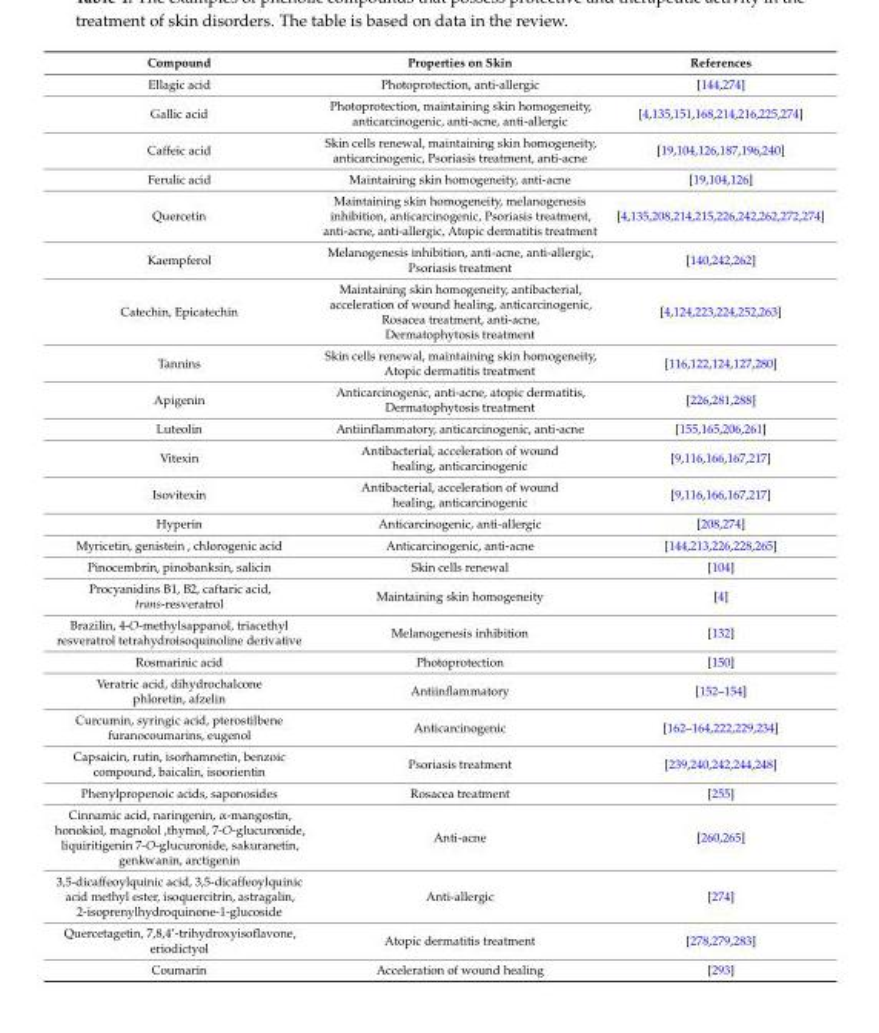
<table><thead><tr><td>Compound</td><td>Properties on Skin</td><td>References</td></tr></thead><tbody><tr><td>Ellagic acid</td><td>Photoprotection, anti-allergic</td><td>[144,274]</td></tr><tr><td>Gallic acid</td><td>Photoprotection, maintaining skin homogeneity, anticarcinogenic, anti-acne, anti-allergic</td><td>[4,135,151,168,214,216,225,274]</td></tr><tr><td>Caffeic acid</td><td>Skin cells renewal, maintaining skin homogeneity, anticarcinogenic, Psoriasis treatment, anti-acne</td><td>[19,104,126,187,196,240]</td></tr><tr><td>Ferulic acid</td><td>Maintaining skin homogeneity, anti-acne</td><td>[19,104,126]</td></tr><tr><td>Quercetin</td><td>Maintaining skin homogeneity, melanogenesis inhibition, anticarcinogenic, Psoriasis treatment, anti-acne, anti-allergic, Atopic dermatitis treatment</td><td>[4,135,208,214,215,226,242,262,272,274]</td></tr><tr><td>Kaempferol</td><td>Melanogenesis inhibition, anti-acne, anti-allergic, Psoriasis treatment</td><td>[140,242,262]</td></tr><tr><td>Catechin, Epicatechin</td><td>Maintaining skin homogeneity, antibacterial, acceleration of wound healing, anticarcinogenic, Rosacea treatment, anti-acne, Dermatophytosis treatment</td><td>[4,124,223,224,252,263]</td></tr><tr><td>Tannins</td><td>Skin cells renewal, maintaining skin homogeneity, Atopic dermatitis treatment</td><td>[116,122,124,127,280]</td></tr><tr><td>Apigenin</td><td>Anticarcinogenic, anti-acne, atopic dermatitis, Dermatophytosis treatment</td><td>[226,281,288]</td></tr><tr><td>Luteolin</td><td>Antiinflammatory, anticarcinogenic, anti-acne</td><td>[155,165,206,261]</td></tr><tr><td>Vitexin</td><td>Antibacterial, acceleration of wound healing, anticarcinogenic</td><td>[9,116,166,167,217]</td></tr><tr><td>Isovitexin</td><td>Antibacterial, acceleration of wound healing, anticarcinogenic</td><td>[9,116,166,167,217]</td></tr><tr><td>Hyperin</td><td>Anticarcinogenic, anti-allergic</td><td>[208,274]</td></tr><tr><td>Myricetin, genistein , chlorogenic acid</td><td>Anticarcinogenic, anti-acne</td><td>[144,213,226,228,265]</td></tr><tr><td>Pinocembrin, pinobanksin, salicin</td><td>Skin cells renewal</td><td>[104]</td></tr><tr><td>Procyanidins B1, B2, caftaric acid, trans-resveratrol</td><td>Maintaining skin homogeneity</td><td>[4]</td></tr><tr><td>Brazilin, 4-O-methylsappanol, triacethyl resveratrol tetrahydroisoquinoline derivative</td><td>Melanogenesis inhibition</td><td>[132]</td></tr><tr><td>Rosmarinic acid</td><td>Photoprotection</td><td>[150]</td></tr><tr><td>Veratric acid, dihydrochalcone phloretin, afzelin</td><td>Antiinflammatory</td><td>[152–154]</td></tr><tr><td>Curcumin, syringic acid, pterostilbene furanocoumarins, eugenol</td><td>Anticarcinogenic</td><td>[162–164,222,229,234]</td></tr><tr><td>Capsaicin, rutin, isorhamnetin, benzoic compound, baicalin, isoorientin</td><td>Psoriasis treatment</td><td>[239,240,242,244,248]</td></tr><tr><td>Phenylpropenoic acids, saponosides</td><td>Rosacea treatment</td><td>[255]</td></tr><tr><td>Cinnamic acid, naringenin, α-mangostin, honokiol, magnolol ,thymol, 7-O-glucuronide, liquiritigenin 7-O-glucuronide, sakuranetin, genkwanin, arctigenin</td><td>Anti-acne</td><td>[260,265]</td></tr><tr><td>3,5-dicaffeoylquinic acid, 3,5-dicaffeoylquinic acid methyl ester, isoquercitrin, astragalin, 2-isoprenylhydroquinone-1-glucoside</td><td>Anti-allergic</td><td>[274]</td></tr><tr><td>Quercetagetin, 7,8,4’-trihydroxyisoflavone, eriodictyol</td><td>Atopic dermatitis treatment</td><td>[278,279,283]</td></tr><tr><td>Coumarin</td><td>Acceleration of wound healing</td><td>[293]</td></tr></tbody></table>